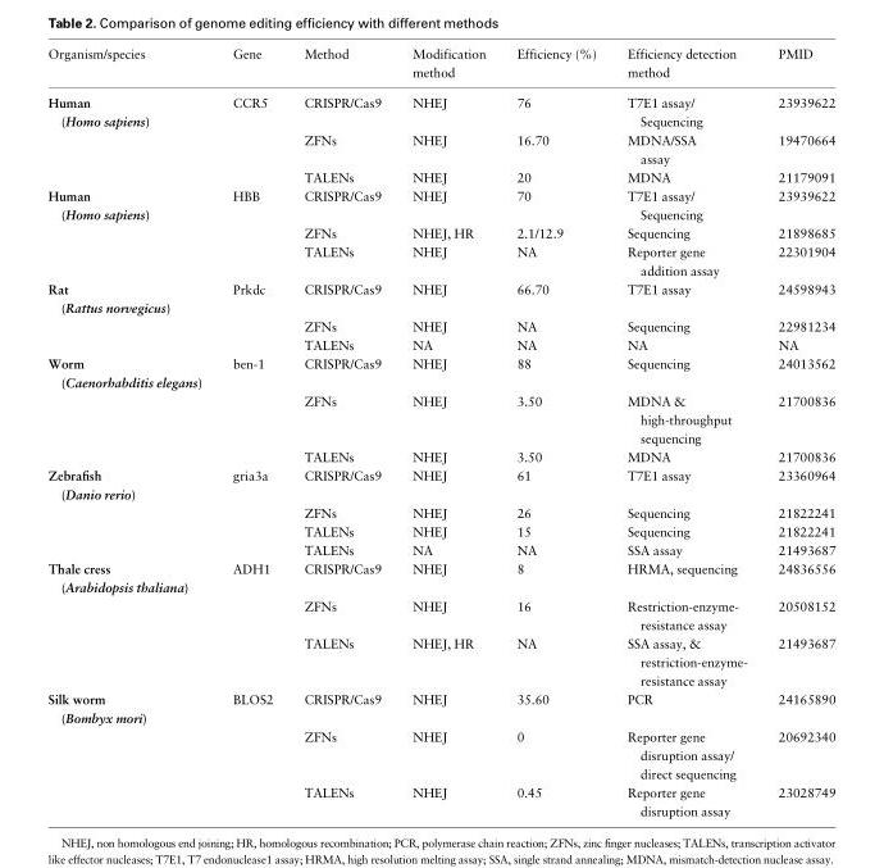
<table><thead><tr><td>Organism/species</td><td>Gene</td><td>Method</td><td>Modification method</td><td>Efficiency (%)</td><td>Efficiency detection method</td><td>PMID</td></tr></thead><tbody><tr><td rowspan="3">Human (Homo sapiens)</td><td>CCR5</td><td>CRISPR/Cas9</td><td>NHEJ</td><td>76</td><td>T7E1 assay/ Sequencing</td><td>23939622</td></tr><tr><td></td><td>ZFNs</td><td>NHEJ</td><td>16.70</td><td>MDNA/SSA assay</td><td>19470664</td></tr><tr><td></td><td>TALENs</td><td>NHEJ</td><td>20</td><td>MDNA</td><td>21179091</td></tr><tr><td rowspan="3">Human (Homo sapiens)</td><td>HBB</td><td>CRISPR/Cas9</td><td>NHEJ</td><td>70</td><td>T7E1 assay/ Sequencing</td><td>23939622</td></tr><tr><td></td><td>ZFNs</td><td>NHEJ, HR</td><td>2.1/12.9</td><td>Sequencing</td><td>21898685</td></tr><tr><td></td><td>TALENs</td><td>NHEJ</td><td>NA</td><td>Reporter gene addition assay</td><td>22301904</td></tr><tr><td rowspan="3">Rat (Rattus norvegicus)</td><td>Prkdc</td><td>CRISPR/Cas9</td><td>NHEJ</td><td>66.70</td><td>T7E1 assay</td><td>24598943</td></tr><tr><td></td><td>ZFNs</td><td>NHEJ</td><td>NA</td><td>Sequencing</td><td>22981234</td></tr><tr><td></td><td>TALENs</td><td>NA</td><td>NA</td><td>NA</td><td>NA</td></tr><tr><td rowspan="3">Worm (Caenorhabditis elegans)</td><td>ben-1</td><td>CRISPR/Cas9</td><td>NHEJ</td><td>88</td><td>Sequencing</td><td>24013562</td></tr><tr><td></td><td>ZFNs</td><td>NHEJ</td><td>3.50</td><td>MDNA &amp; high-throughput sequencing</td><td>21700836</td></tr><tr><td></td><td>TALENs</td><td>NHEJ</td><td>3.50</td><td>MDNA</td><td>21700836</td></tr><tr><td rowspan="4">Zebrafish (Danio rerio)</td><td>gria3a</td><td>CRISPR/Cas9</td><td>NHEJ</td><td>61</td><td>T7E1 assay</td><td>23360964</td></tr><tr><td></td><td>ZFNs</td><td>NHEJ</td><td>26</td><td>Sequencing</td><td>21822241</td></tr><tr><td></td><td>TALENs</td><td>NHEJ</td><td>15</td><td>Sequencing</td><td>21822241</td></tr><tr><td></td><td>TALENs</td><td>NA</td><td>NA</td><td>SSA assay</td><td>21493687</td></tr><tr><td rowspan="3">Thale cress (Arabidopsis thaliana)</td><td>ADH1</td><td>CRISPR/Cas9</td><td>NHEJ</td><td>8</td><td>HRMA, sequencing</td><td>24836556</td></tr><tr><td></td><td>ZFNs</td><td>NHEJ</td><td>16</td><td>Restriction-enzyme- resistance assay</td><td>20508152</td></tr><tr><td></td><td>TALENs</td><td>NHEJ, HR</td><td>NA</td><td>SSA assay, &amp; restriction-enzyme- resistance assay</td><td>21493687</td></tr><tr><td rowspan="3">Silk worm (Bombyx mori)</td><td>BLOS2</td><td>CRISPR/Cas9</td><td>NHEJ</td><td>35.60</td><td>PCR</td><td>24165890</td></tr><tr><td></td><td>ZFNs</td><td>NHEJ</td><td>0</td><td>Reporter gene disruption assay/ direct sequencing</td><td>20692340</td></tr><tr><td></td><td>TALENs</td><td>NHEJ</td><td>0.45</td><td>Reporter gene disruption assay</td><td>23028749</td></tr></tbody></table>